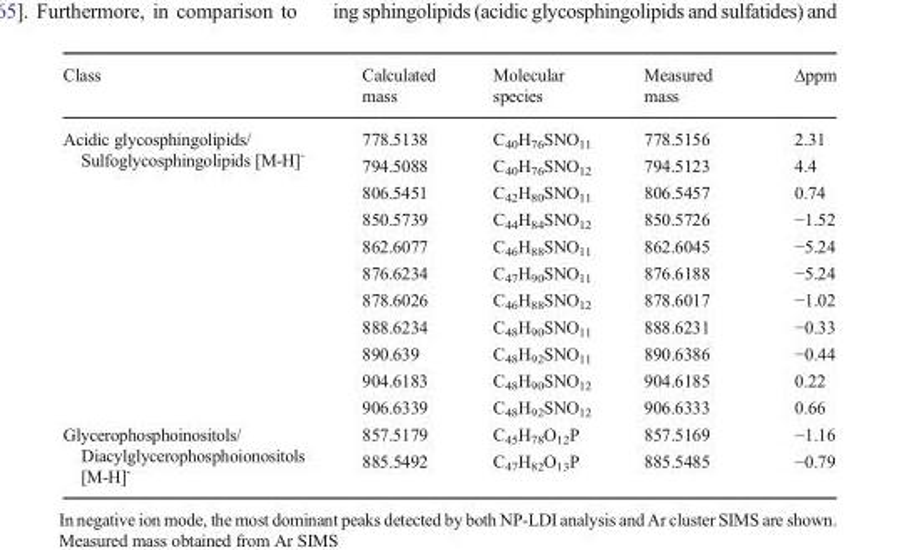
<table><thead><tr><td>Class</td><td>Calculated mass</td><td>Molecular species</td><td>Measured mass</td><td>Δppm</td></tr></thead><tbody><tr><td rowspan="11">Acidic glycosphingolipids/ Sulfoglycosphingolipids [M-H]<sup>-</sup></td><td>778.5138</td><td>C<sub>40</sub>H<sub>76</sub>SNO<sub>11</sub></td><td>778.5156</td><td>2.31</td></tr><tr><td>794.5088</td><td>C<sub>40</sub>H<sub>76</sub>SNO<sub>12</sub></td><td>794.5123</td><td>4.4</td></tr><tr><td>806.5451</td><td>C<sub>42</sub>H<sub>80</sub>SNO<sub>11</sub></td><td>806.5457</td><td>0.74</td></tr><tr><td>850.5739</td><td>C<sub>44</sub>H<sub>84</sub>SNO<sub>12</sub></td><td>850.5726</td><td>−1.52</td></tr><tr><td>862.6077</td><td>C<sub>46</sub>H<sub>88</sub>SNO<sub>11</sub></td><td>862.6045</td><td>−5.24</td></tr><tr><td>876.6234</td><td>C<sub>47</sub>H<sub>90</sub>SNO<sub>11</sub></td><td>876.6188</td><td>−5.24</td></tr><tr><td>878.6026</td><td>C<sub>46</sub>H<sub>88</sub>SNO<sub>12</sub></td><td>878.6017</td><td>−1.02</td></tr><tr><td>888.6234</td><td>C<sub>48</sub>H<sub>90</sub>SNO<sub>11</sub></td><td>888.6231</td><td>−0.33</td></tr><tr><td>890.639</td><td>C<sub>48</sub>H<sub>92</sub>SNO<sub>11</sub></td><td>890.6386</td><td>−0.44</td></tr><tr><td>904.6183</td><td>C<sub>48</sub>H<sub>90</sub>SNO<sub>12</sub></td><td>904.6185</td><td>0.22</td></tr><tr><td>906.6339</td><td>C<sub>48</sub>H<sub>92</sub>SNO<sub>12</sub></td><td>906.6333</td><td>0.66</td></tr><tr><td rowspan="2">Glycerophosphoinositols/ Diacylglycerophosphoionositols [M-H]<sup>-</sup></td><td>857.5179</td><td>C<sub>45</sub>H<sub>78</sub>O<sub>12</sub>P</td><td>857.5169</td><td>−1.16</td></tr><tr><td>885.5492</td><td>C<sub>47</sub>H<sub>82</sub>O<sub>13</sub>P</td><td>885.5485</td><td>−0.79</td></tr></tbody></table>